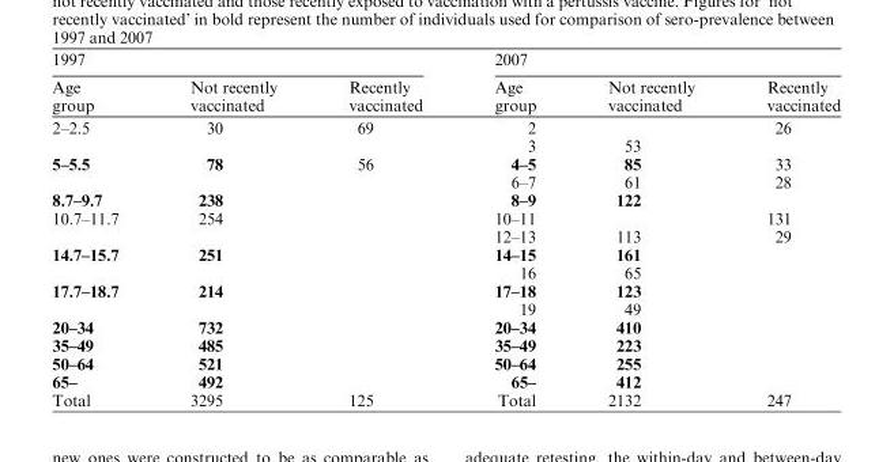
<table><thead><tr><td colspan="3">1997</td><td colspan="3">2007</td></tr><tr><td>Age group</td><td>Not recently vaccinated</td><td>Recently vaccinated</td><td>Age group</td><td>Not recently vaccinated</td><td>Recently vaccinated</td></tr></thead><tbody><tr><td rowspan="2">2–2.5</td><td>30</td><td>69</td><td>2</td><td></td><td>26</td></tr><tr><td></td><td></td><td>3</td><td>53</td><td></td></tr><tr><td rowspan="2">5–5.5</td><td>78</td><td>56</td><td>4–5</td><td>85</td><td>33</td></tr><tr><td></td><td></td><td>6–7</td><td>61</td><td>28</td></tr><tr><td>8.7–9.7</td><td>238</td><td></td><td>8–9</td><td>122</td><td></td></tr><tr><td rowspan="2">10.7–11.7</td><td>254</td><td></td><td>10–11</td><td></td><td>131</td></tr><tr><td></td><td></td><td>12–13</td><td>113</td><td>29</td></tr><tr><td rowspan="2">14.7–15.7</td><td>251</td><td></td><td>14–15</td><td>161</td><td></td></tr><tr><td></td><td></td><td>16</td><td>65</td><td></td></tr><tr><td rowspan="2">17.7–18.7</td><td>214</td><td></td><td>17–18</td><td>123</td><td></td></tr><tr><td></td><td></td><td>19</td><td>49</td><td></td></tr><tr><td>20–34</td><td>732</td><td></td><td>20–34</td><td>410</td><td></td></tr><tr><td>35–49</td><td>485</td><td></td><td>35–49</td><td>223</td><td></td></tr><tr><td>50–64</td><td>521</td><td></td><td>50–64</td><td>255</td><td></td></tr><tr><td>65–</td><td>492</td><td></td><td>65–</td><td>412</td><td></td></tr><tr><td>Total</td><td>3295</td><td>125</td><td>Total</td><td>2132</td><td>247</td></tr></tbody></table>